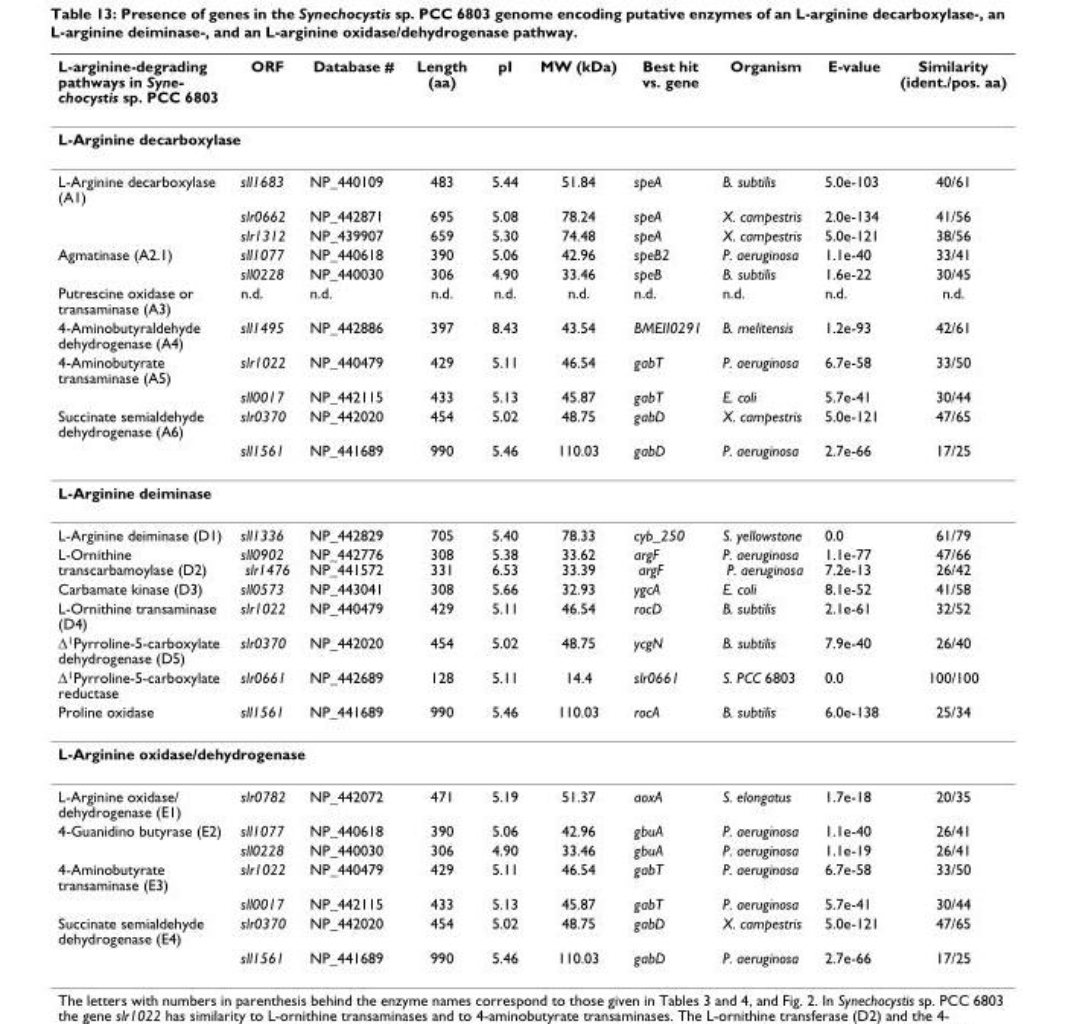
<table><thead><tr><td>L-arginine-degrading pathways in Syne- chocystis sp. PCC 6803</td><td>ORF</td><td>Database #</td><td>Length (aa)</td><td>pI</td><td>MW (kDa)</td><td>Best hit vs. gene</td><td>Organism</td><td>E-value</td><td>Similarity (ident./pos. aa)</td></tr></thead><tbody><tr><td colspan="10">L-Arginine decarboxylase</td></tr><tr><td rowspan="3">L-Arginine decarboxylase (A1)</td><td>sll1683</td><td>NP_440109</td><td>483</td><td>5.44</td><td>51.84</td><td>speA</td><td>B. subtilis</td><td>5.0e-103</td><td>40/61</td></tr><tr><td>slr0662</td><td>NP_442871</td><td>695</td><td>5.08</td><td>78.24</td><td>speA</td><td>X. campestris</td><td>2.0e-134</td><td>41/56</td></tr><tr><td>slr1312</td><td>NP_439907</td><td>659</td><td>5.30</td><td>74.48</td><td>speA</td><td>X. campestris</td><td>5.0e-121</td><td>38/56</td></tr><tr><td rowspan="2">Agmatinase (A2.1)</td><td>sll1077</td><td>NP_440618</td><td>390</td><td>5.06</td><td>42.96</td><td>speB2</td><td>P. aeruginosa</td><td>1.1e-40</td><td>33/41</td></tr><tr><td>sll0228</td><td>NP_440030</td><td>306</td><td>4.90</td><td>33.46</td><td>speB</td><td>B. subtilis</td><td>1.6e-22</td><td>30/45</td></tr><tr><td>Putrescine oxidase or transaminase (A3)</td><td>n.d.</td><td>n.d.</td><td>n.d.</td><td>n.d.</td><td>n.d.</td><td>n.d.</td><td>n.d.</td><td>n.d.</td><td>n.d.</td></tr><tr><td>4-Aminobutyraldehyde dehydrogenase (A4)</td><td>sll1495</td><td>NP_442886</td><td>397</td><td>8.43</td><td>43.54</td><td>BMEII0291</td><td>B. melitensis</td><td>1.2e-93</td><td>42/61</td></tr><tr><td rowspan="2">4-Aminobutyrate transaminase (A5)</td><td>slr1022</td><td>NP_440479</td><td>429</td><td>5.11</td><td>46.54</td><td>gabT</td><td>P. aeruginosa</td><td>6.7e-58</td><td>33/50</td></tr><tr><td>sll0017</td><td>NP_442115</td><td>433</td><td>5.13</td><td>45.87</td><td>gabT</td><td>E. coli</td><td>5.7e-41</td><td>30/44</td></tr><tr><td rowspan="2">Succinate semialdehyde dehydrogenase (A6)</td><td>slr0370</td><td>NP_442020</td><td>454</td><td>5.02</td><td>48.75</td><td>gabD</td><td>X. campestris</td><td>5.0e-121</td><td>47/65</td></tr><tr><td>sll1561</td><td>NP_441689</td><td>990</td><td>5.46</td><td>110.03</td><td>gabD</td><td>P. aeruginosa</td><td>2.7e-66</td><td>17/25</td></tr><tr><td colspan="10">L-Arginine deiminase</td></tr><tr><td>L-Arginine deiminase (D1)</td><td>sll1336</td><td>NP_442829</td><td>705</td><td>5.40</td><td>78.33</td><td>cyb_250</td><td>S. yellowstone</td><td>0.0</td><td>61/79</td></tr><tr><td>L-Ornithine transcarbamoylase (D2)</td><td>sll0902 slr1476</td><td>NP_442776 NP_441572</td><td>308 331</td><td>5.38 6.53</td><td>33.62 33.39</td><td>argF argF</td><td>P. aeruginosa P. aeruginosa</td><td>1.1e-77 7.2e-13</td><td>47/66 26/42</td></tr><tr><td>Carbamate kinase (D3)</td><td>sll0573</td><td>NP_443041</td><td>308</td><td>5.66</td><td>32.93</td><td>ygcA</td><td>E. coli</td><td>8.1e-52</td><td>41/58</td></tr><tr><td>L-Ornithine transaminase (D4)</td><td>slr1022</td><td>NP_440479</td><td>429</td><td>5.11</td><td>46.54</td><td>rocD</td><td>B. subtilis</td><td>2.1e-61</td><td>32/52</td></tr><tr><td>Δ<sup>1</sup>Pyrroline-5-carboxylate dehydrogenase (D5)</td><td>slr0370</td><td>NP_442020</td><td>454</td><td>5.02</td><td>48.75</td><td>ycgN</td><td>B. subtilis</td><td>7.9e-40</td><td>26/40</td></tr><tr><td>Δ<sup>1</sup>Pyrroline-5-carboxylate reductase</td><td>slr0661</td><td>NP_442689</td><td>128</td><td>5.11</td><td>14.4</td><td>slr0661</td><td>S. PCC 6803</td><td>0.0</td><td>100/100</td></tr><tr><td>Proline oxidase</td><td>sll1561</td><td>NP_441689</td><td>990</td><td>5.46</td><td>110.03</td><td>rocA</td><td>B. subtilis</td><td>6.0e-138</td><td>25/34</td></tr><tr><td colspan="10">L-Arginine oxidase/dehydrogenase</td></tr><tr><td>L-Arginine oxidase/ dehydrogenase (E1)</td><td>slr0782</td><td>NP_442072</td><td>471</td><td>5.19</td><td>51.37</td><td>aoxA</td><td>S. elongatus</td><td>1.7e-18</td><td>20/35</td></tr><tr><td rowspan="2">4-Guanidino butyrase (E2)</td><td>sll1077</td><td>NP_440618</td><td>390</td><td>5.06</td><td>42.96</td><td>gbuA</td><td>P. aeruginosa</td><td>1.1e-40</td><td>26/41</td></tr><tr><td>sll0228</td><td>NP_440030</td><td>306</td><td>4.90</td><td>33.46</td><td>gbuA</td><td>P. aeruginosa</td><td>1.1e-19</td><td>26/41</td></tr><tr><td rowspan="2">4-Aminobutyrate transaminase (E3)</td><td>slr1022</td><td>NP_440479</td><td>429</td><td>5.11</td><td>46.54</td><td>gabT</td><td>P. aeruginosa</td><td>6.7e-58</td><td>33/50</td></tr><tr><td>sll0017</td><td>NP_442115</td><td>433</td><td>5.13</td><td>45.87</td><td>gabT</td><td>P. aeruginosa</td><td>5.7e-41</td><td>30/44</td></tr><tr><td rowspan="2">Succinate semialdehyde dehydrogenase (E4)</td><td>slr0370</td><td>NP_442020</td><td>454</td><td>5.02</td><td>48.75</td><td>gabD</td><td>X. campestris</td><td>5.0e-121</td><td>47/65</td></tr><tr><td>sll1561</td><td>NP_441689</td><td>990</td><td>5.46</td><td>110.03</td><td>gabD</td><td>P. aeruginosa</td><td>2.7e-66</td><td>17/25</td></tr></tbody></table>